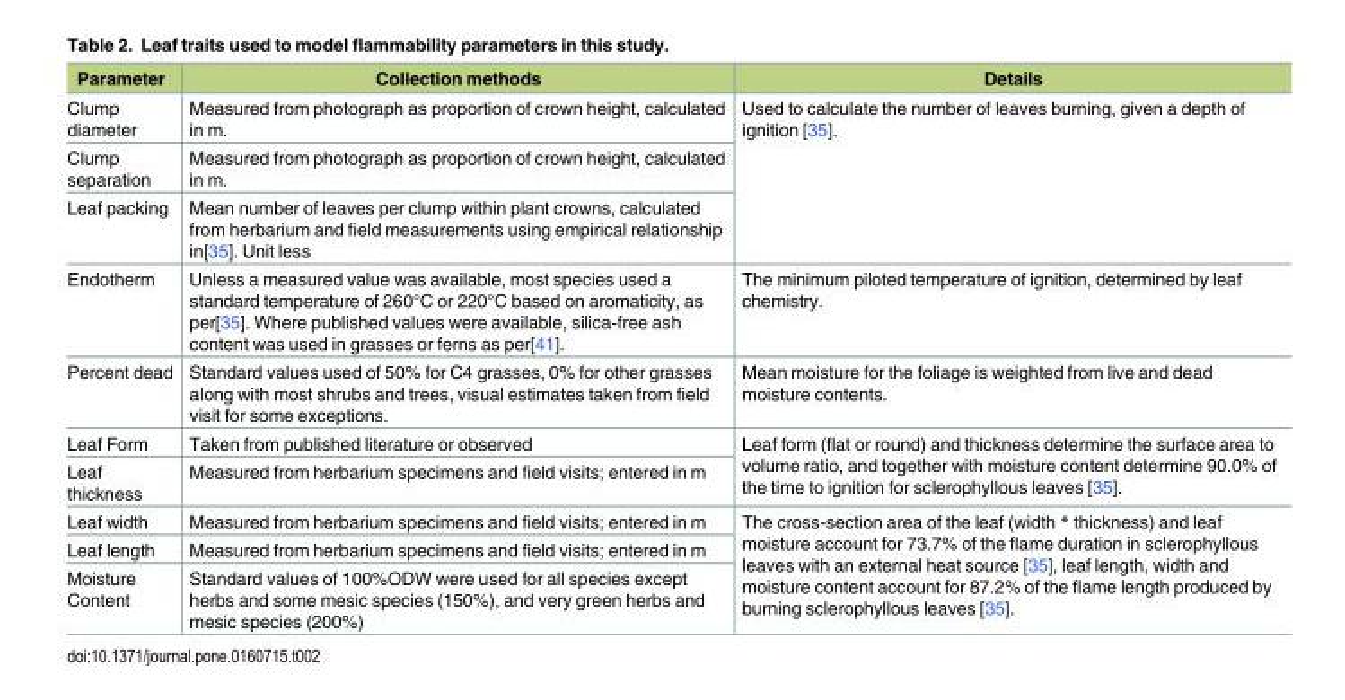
<table><thead><tr><td>Parameter</td><td>Collection methods</td><td>Details</td></tr></thead><tbody><tr><td>Clump diameter</td><td>Measured from photograph as proportion of crown height, calculated in m.</td><td rowspan="3">Used to calculate the number of leaves burning, given a depth of ignition [35].</td></tr><tr><td>Clump separation</td><td>Measured from photograph as proportion of crown height, calculated in m.</td></tr><tr><td>Leaf packing</td><td>Mean number of leaves per clump within plant crowns, calculated from herbarium and field measurements using empirical relationship in[35]. Unit less</td></tr><tr><td>Endotherm</td><td>Unless a measured value was available, most species used a standard temperature of 260°C or 220°C based on aromaticity, as per[35]. Where published values were available, silica-free ash content was used in grasses or ferns as per[41].</td><td>The minimum piloted temperature of ignition, determined by leaf chemistry.</td></tr><tr><td>Percent dead</td><td>Standard values used of 50% for C4 grasses, 0% for other grasses along with most shrubs and trees, visual estimates taken from field visit for some exceptions.</td><td>Mean moisture for the foliage is weighted from live and dead moisture contents.</td></tr><tr><td>Leaf Form</td><td>Taken from published literature or observed</td><td rowspan="2">Leaf form (flat or round) and thickness determine the surface area to volume ratio, and together with moisture content determine 90.0% of the time to ignition for sclerophyllous leaves [35].</td></tr><tr><td>Leaf thickness</td><td>Measured from herbarium specimens and field visits; entered in m</td></tr><tr><td>Leaf width</td><td>Measured from herbarium specimens and field visits; entered in m</td><td rowspan="3">The cross-section area of the leaf (width * thickness) and leaf moisture account for 73.7% of the flame duration in sclerophyllous leaves with an external heat source [35], leaf length, width and moisture content account for 87.2% of the flame length produced by burning sclerophyllous leaves [35].</td></tr><tr><td>Leaf length</td><td>Measured from herbarium specimens and field visits; entered in m</td></tr><tr><td>Moisture Content</td><td>Standard values of 100%ODW were used for all species except herbs and some mesic species (150%), and very green herbs and mesic species (200%)</td></tr></tbody></table>